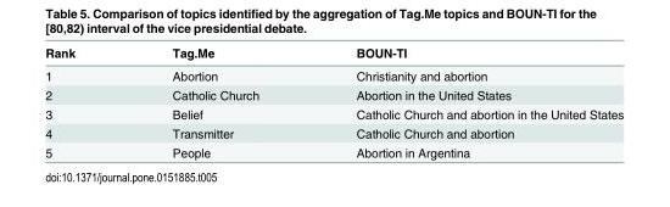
<table><thead><tr><td>Rank</td><td>Tag.Me</td><td>BOUN-TI</td></tr></thead><tbody><tr><td>1</td><td>Abortion</td><td>Christianity and abortion</td></tr><tr><td>2</td><td>Catholic Church</td><td>Abortion in the United States</td></tr><tr><td>3</td><td>Belief</td><td>Catholic Church and abortion in the United States</td></tr><tr><td>4</td><td>Transmitter</td><td>Catholic Church and abortion</td></tr><tr><td>5</td><td>People</td><td>Abortion in Argentina</td></tr></tbody></table>